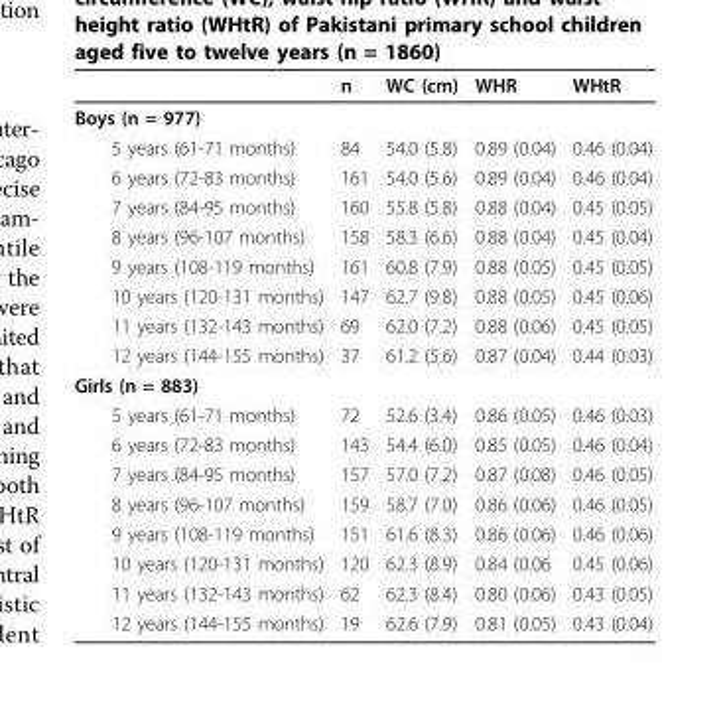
<table><thead><tr><td></td><td>n</td><td>WC (cm)</td><td>WHR</td><td>WHtR</td></tr></thead><tbody><tr><td colspan="5">Boys (n = 977)</td></tr><tr><td>5 years (61-71 months)</td><td>84</td><td>54.0 (5.8)</td><td>0.89 (0.04)</td><td>0.46 (0.04)</td></tr><tr><td>6 years (72-83 months)</td><td>161</td><td>54.0 (5.6)</td><td>0.89 (0.04)</td><td>0.46 (0.04)</td></tr><tr><td>7 years (84-95 months)</td><td>160</td><td>55.8 (5.8)</td><td>0.88 (0.04)</td><td>0.45 (0.05)</td></tr><tr><td>8 years (96-107 months)</td><td>158</td><td>58.3 (6.6)</td><td>0.88 (0.04)</td><td>0.45 (0.04)</td></tr><tr><td>9 years (108-119 months)</td><td>161</td><td>60.8 (7.9)</td><td>0.88 (0.05)</td><td>0.45 (0.05)</td></tr><tr><td>10 years (120-131 months)</td><td>147</td><td>62.7 (9.8)</td><td>0.88 (0.05)</td><td>0.45 (0.06)</td></tr><tr><td>11 years (132-143 months)</td><td>69</td><td>62.0 (7.2)</td><td>0.88 (0.06)</td><td>0.45 (0.05)</td></tr><tr><td>12 years (144-155 months)</td><td>37</td><td>61.2 (5.6)</td><td>0.87 (0.04)</td><td>0.44 (0.03)</td></tr><tr><td colspan="5">Girls (n = 883)</td></tr><tr><td>5 years (61-71 months)</td><td>72</td><td>52.6 (3.4)</td><td>0.86 (0.05)</td><td>0.46 (0.03)</td></tr><tr><td>6 years (72-83 months)</td><td>143</td><td>54.4 (6.0)</td><td>0.85 (0.05)</td><td>0.46 (0.04)</td></tr><tr><td>7 years (84-95 months)</td><td>157</td><td>57.0 (7.2)</td><td>0.87 (0.08)</td><td>0.46 (0.05)</td></tr><tr><td>8 years (96-107 months)</td><td>159</td><td>58.7 (7.0)</td><td>0.86 (0.06)</td><td>0.46 (0.05)</td></tr><tr><td>9 years (108-119 months)</td><td>151</td><td>61.6 (8.3)</td><td>0.86 (0.06)</td><td>0.46 (0.06)</td></tr><tr><td>10 years (120-131 months)</td><td>120</td><td>62.3 (8.9)</td><td>0.84 (0.06</td><td>0.45 (0.06)</td></tr><tr><td>11 years (132-143 months)</td><td>62</td><td>62.3 (8.4)</td><td>0.80 (0.06)</td><td>0.43 (0.05)</td></tr><tr><td>12 years (144-155 months)</td><td>19</td><td>62.6 (7.9)</td><td>0.81 (0.05)</td><td>0.43 (0.04)</td></tr></tbody></table>